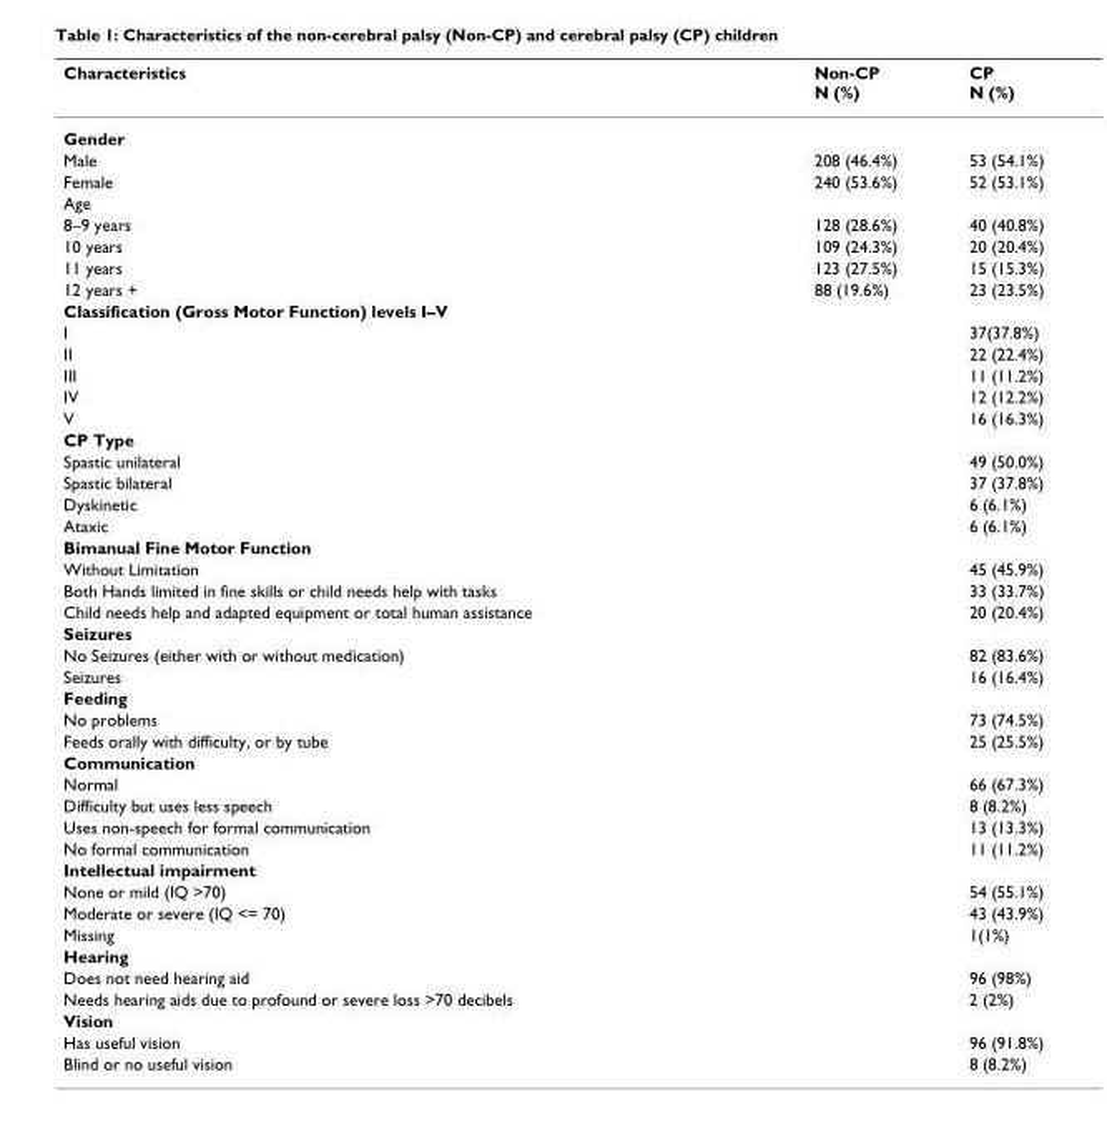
<table><thead><tr><td>Characteristics</td><td>Non-CP N (%)</td><td>CP N (%)</td></tr></thead><tbody><tr><td colspan="3">Gender</td></tr><tr><td>Male</td><td>208 (46.4%)</td><td>53 (54.1%)</td></tr><tr><td>Female</td><td>240 (53.6%)</td><td>52 (53.1%)</td></tr><tr><td colspan="3">Age</td></tr><tr><td>8–9 years</td><td>128 (28.6%)</td><td>40 (40.8%)</td></tr><tr><td>10 years</td><td>109 (24.3%)</td><td>20 (20.4%)</td></tr><tr><td>11 years</td><td>123 (27.5%)</td><td>15 (15.3%)</td></tr><tr><td>12 years +</td><td>88 (19.6%)</td><td>23 (23.5%)</td></tr><tr><td colspan="3">Classification (Gross Motor Function) levels I–V</td></tr><tr><td>I</td><td></td><td>37(37.8%)</td></tr><tr><td>II</td><td></td><td>22 (22.4%)</td></tr><tr><td>III</td><td></td><td>11 (11.2%)</td></tr><tr><td>IV</td><td></td><td>12 (12.2%)</td></tr><tr><td>V</td><td></td><td>16 (16.3%)</td></tr><tr><td colspan="3">CP Type</td></tr><tr><td>Spastic unilateral</td><td></td><td>49 (50.0%)</td></tr><tr><td>Spastic bilateral</td><td></td><td>37 (37.8%)</td></tr><tr><td>Dyskinetic</td><td></td><td>6 (6.1%)</td></tr><tr><td>Ataxic</td><td></td><td>6 (6.1%)</td></tr><tr><td colspan="3">Bimanual Fine Motor Function</td></tr><tr><td>Without Limitation</td><td></td><td>45 (45.9%)</td></tr><tr><td>Both Hands limited in fine skills or child needs help with tasks</td><td></td><td>33 (33.7%)</td></tr><tr><td>Child needs help and adapted equipment or total human assistance</td><td></td><td>20 (20.4%)</td></tr><tr><td colspan="3">Seizures</td></tr><tr><td>No Seizures (either with or without medication)</td><td></td><td>82 (83.6%)</td></tr><tr><td>Seizures</td><td></td><td>16 (16.4%)</td></tr><tr><td colspan="3">Feeding</td></tr><tr><td>No problems</td><td></td><td>73 (74.5%)</td></tr><tr><td>Feeds orally with difficulty, or by tube</td><td></td><td>25 (25.5%)</td></tr><tr><td colspan="3">Communication</td></tr><tr><td>Normal</td><td></td><td>66 (67.3%)</td></tr><tr><td>Difficulty but uses less speech</td><td></td><td>8 (8.2%)</td></tr><tr><td>Uses non-speech for formal communication</td><td></td><td>13 (13.3%)</td></tr><tr><td>No formal communication</td><td></td><td>11 (11.2%)</td></tr><tr><td colspan="3">Intellectual impairment</td></tr><tr><td>None or mild (IQ &gt;70)</td><td></td><td>54 (55.1%)</td></tr><tr><td>Moderate or severe (IQ &lt;= 70)</td><td></td><td>43 (43.9%)</td></tr><tr><td>Missing</td><td></td><td>1(1%)</td></tr><tr><td colspan="3">Hearing</td></tr><tr><td>Does not need hearing aid</td><td></td><td>96 (98%)</td></tr><tr><td>Needs hearing aids due to profound or severe loss &gt;70 decibels</td><td></td><td>2 (2%)</td></tr><tr><td colspan="3">Vision</td></tr><tr><td>Has useful vision</td><td></td><td>96 (91.8%)</td></tr><tr><td>Blind or no useful vision</td><td></td><td>8 (8.2%)</td></tr></tbody></table>